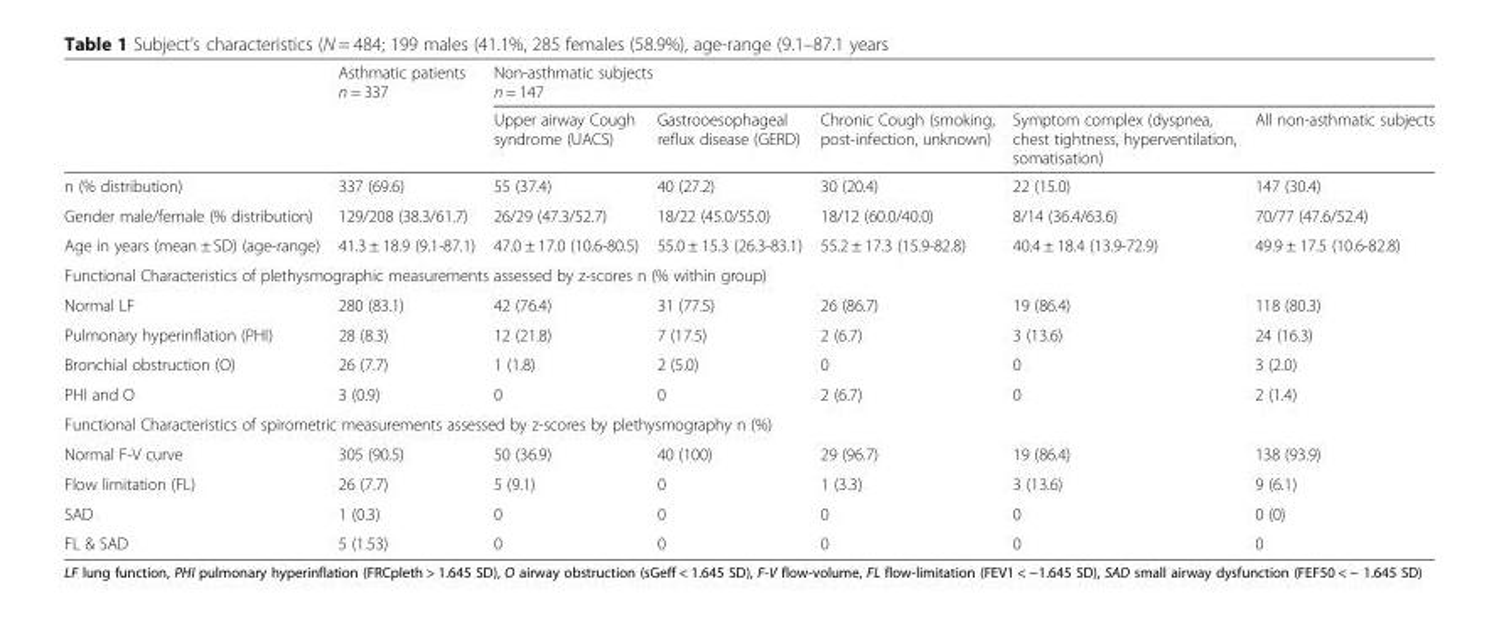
<table><thead><tr><td rowspan="2"></td><td rowspan="2">Asthmatic patients n = 337</td><td colspan="5">Non-asthmatic subjects n = 147</td></tr><tr><td>Upper airway Cough syndrome (UACS)</td><td>Gastrooesophageal reflux disease (GERD)</td><td>Chronic Cough (smoking, post-infection, unknown)</td><td>Symptom complex (dyspnea, chest tightness, hyperventilation, somatisation)</td><td>All non-asthmatic subjects</td></tr></thead><tbody><tr><td>n (% distribution)</td><td>337 (69.6)</td><td>55 (37.4)</td><td>40 (27.2)</td><td>30 (20.4)</td><td>22 (15.0)</td><td>147 (30.4)</td></tr><tr><td>Gender male/female (% distribution)</td><td>129/208 (38.3/61.7)</td><td>26/29 (47.3/52.7)</td><td>18/22 (45.0/55.0)</td><td>18/12 (60.0/40.0)</td><td>8/14 (36.4/63.6)</td><td>70/77 (47.6/52.4)</td></tr><tr><td>Age in years (mean ± SD) (age-range)</td><td>41.3 ± 18.9 (9.1-87.1)</td><td>47.0 ± 17.0 (10.6-80.5)</td><td>55.0 ± 15.3 (26.3-83.1)</td><td>55.2 ± 17.3 (15.9-82.8)</td><td>40.4 ± 18.4 (13.9-72.9)</td><td>49.9 ± 17.5 (10.6-82.8)</td></tr><tr><td colspan="7">Functional Characteristics of plethysmographic measurements assessed by z-scores n (% within group)</td></tr><tr><td>Normal LF</td><td>280 (83.1)</td><td>42 (76.4)</td><td>31 (77.5)</td><td>26 (86.7)</td><td>19 (86.4)</td><td>118 (80.3)</td></tr><tr><td>Pulmonary hyperinflation (PHI)</td><td>28 (8.3)</td><td>12 (21.8)</td><td>7 (17.5)</td><td>2 (6.7)</td><td>3 (13.6)</td><td>24 (16.3)</td></tr><tr><td>Bronchial obstruction (O)</td><td>26 (7.7)</td><td>1 (1.8)</td><td>2 (5.0)</td><td>0</td><td>0</td><td>3 (2.0)</td></tr><tr><td>PHI and O</td><td>3 (0.9)</td><td>0</td><td>0</td><td>2 (6.7)</td><td>0</td><td>2 (1.4)</td></tr><tr><td colspan="7">Functional Characteristics of spirometric measurements assessed by z-scores by plethysmography n (%)</td></tr><tr><td>Normal F-V curve</td><td>305 (90.5)</td><td>50 (36.9)</td><td>40 (100)</td><td>29 (96.7)</td><td>19 (86.4)</td><td>138 (93.9)</td></tr><tr><td>Flow limitation (FL)</td><td>26 (7.7)</td><td>5 (9.1)</td><td>0</td><td>1 (3.3)</td><td>3 (13.6)</td><td>9 (6.1)</td></tr><tr><td>SAD</td><td>1 (0.3)</td><td>0</td><td>0</td><td>0</td><td>0</td><td>0 (0)</td></tr><tr><td>FL &amp; SAD</td><td>5 (1.53)</td><td>0</td><td>0</td><td>0</td><td>0</td><td>0</td></tr></tbody></table>